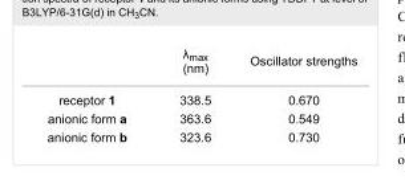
<table><thead><tr><td></td><td>λ<sub>max</sub> (nm)</td><td>Oscillator strengths</td></tr></thead><tbody><tr><td>receptor 1</td><td>338.5</td><td>0.670</td></tr><tr><td>anionic form a</td><td>363.6</td><td>0.549</td></tr><tr><td>anionic form b</td><td>323.6</td><td>0.730</td></tr></tbody></table>